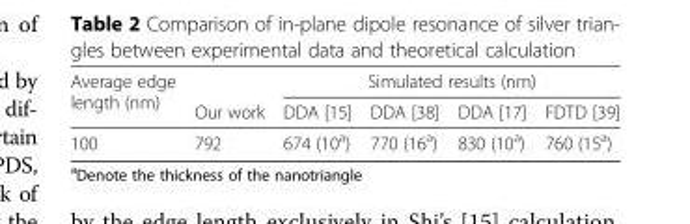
<table><thead><tr><td rowspan="2">Average edge length (nm)</td><td rowspan="2">Our work</td><td colspan="4">Simulated results (nm)</td></tr><tr><td>DDA [15]</td><td>DDA [38]</td><td>DDA [17]</td><td>FDTD [39]</td></tr></thead><tbody><tr><td>100</td><td>792</td><td>674 (10<sup>a</sup>)</td><td>770 (16<sup>a</sup>)</td><td>830 (10<sup>a</sup>)</td><td>760 (15<sup>a</sup>)</td></tr></tbody></table>